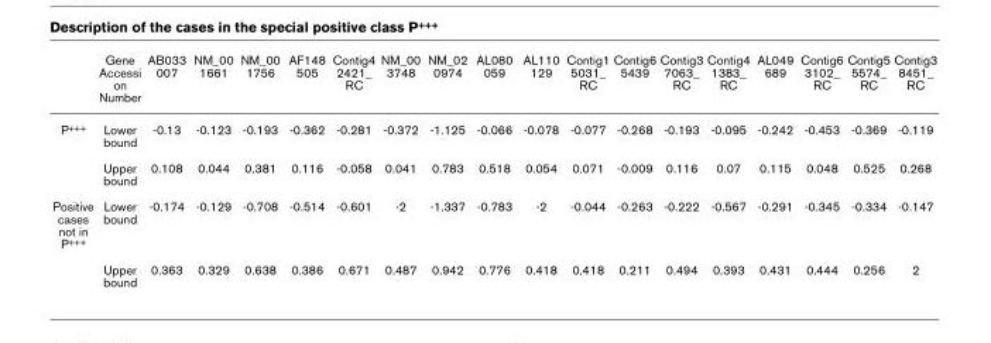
<table><thead><tr><td></td><td>Gene Accessi on Number</td><td>AB033 007</td><td>NM_00 1661</td><td>NM_00 1756</td><td>AF148 505</td><td>Contig4 2421_ RC</td><td>NM_00 3748</td><td>NM_02 0974</td><td>AL080 059</td><td>AL110 129</td><td>Contig1 5031_ RC</td><td>Contig6 5439</td><td>Contig3 7063_ RC</td><td>Contig4 1383_ RC</td><td>AL049 689</td><td>Contig6 3102_ RC</td><td>Contig5 5574_ RC</td><td>Contig3 8451_ RC</td></tr></thead><tbody><tr><td rowspan="2">P+++</td><td>Lower bound</td><td>-0.13</td><td>-0.123</td><td>-0.193</td><td>-0.362</td><td>-0.281</td><td>-0.372</td><td>-1.125</td><td>-0.066</td><td>-0.078</td><td>-0.077</td><td>-0.268</td><td>-0.193</td><td>-0.095</td><td>-0.242</td><td>-0.453</td><td>-0.369</td><td>-0.119</td></tr><tr><td>Upper bound</td><td>0.108</td><td>0.044</td><td>0.381</td><td>0.116</td><td>-0.058</td><td>0.041</td><td>0.783</td><td>0.518</td><td>0.054</td><td>0.071</td><td>-0.009</td><td>0.116</td><td>0.07</td><td>0.115</td><td>0.048</td><td>0.525</td><td>0.268</td></tr><tr><td rowspan="2">Positive cases not in P+++</td><td>Lower bound</td><td>-0.174</td><td>-0.129</td><td>-0.708</td><td>-0.514</td><td>-0.601</td><td>-2</td><td>-1.337</td><td>-0.783</td><td>-2</td><td>-0.044</td><td>-0.263</td><td>-0.222</td><td>-0.567</td><td>-0.291</td><td>-0.345</td><td>-0.334</td><td>-0.147</td></tr><tr><td>Upper bound</td><td>0.363</td><td>0.329</td><td>0.638</td><td>0.386</td><td>0.671</td><td>0.487</td><td>0.942</td><td>0.776</td><td>0.418</td><td>0.418</td><td>0.211</td><td>0.494</td><td>0.393</td><td>0.431</td><td>0.444</td><td>0.256</td><td>2</td></tr></tbody></table>